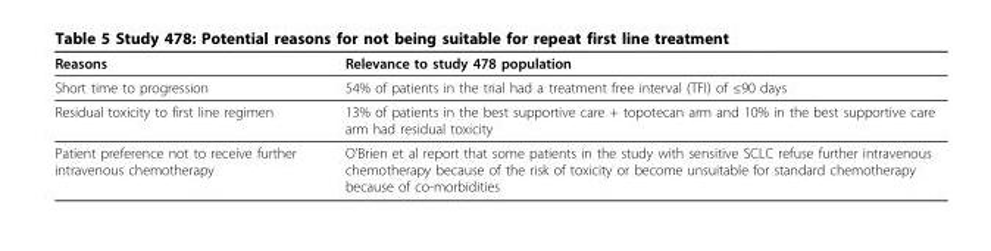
<table><thead><tr><td>Reasons</td><td>Relevance to study 478 population</td></tr></thead><tbody><tr><td>Short time to progression</td><td>54% of patients in the trial had a treatment free interval (TFI) of ≤90 days</td></tr><tr><td>Residual toxicity to first line regimen</td><td>13% of patients in the best supportive care + topotecan arm and 10% in the best supportive care arm had residual toxicity</td></tr><tr><td>Patient preference not to receive further intravenous chemotherapy</td><td>O’Brien et al report that some patients in the study with sensitive SCLC refuse further intravenous chemotherapy because of the risk of toxicity or become unsuitable for standard chemotherapy because of co-morbidities</td></tr></tbody></table>